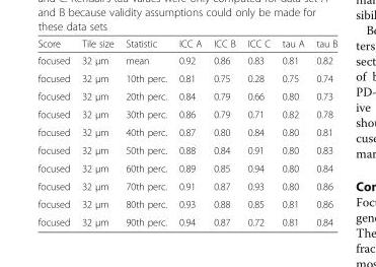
<table><thead><tr><td>Score</td><td>Tile size</td><td>Statistic</td><td>ICC A</td><td>ICC B</td><td>ICC C</td><td>tau A</td><td>tau B</td></tr></thead><tbody><tr><td>focused</td><td>32 μm</td><td>mean</td><td>0.92</td><td>0.86</td><td>0.83</td><td>0.81</td><td>0.82</td></tr><tr><td>focused</td><td>32 μm</td><td>10th perc.</td><td>0.81</td><td>0.75</td><td>0.28</td><td>0.75</td><td>0.74</td></tr><tr><td>focused</td><td>32 μm</td><td>20th perc.</td><td>0.84</td><td>0.79</td><td>0.66</td><td>0.80</td><td>0.73</td></tr><tr><td>focused</td><td>32 μm</td><td>30th perc.</td><td>0.86</td><td>0.79</td><td>0.71</td><td>0.82</td><td>0.78</td></tr><tr><td>focused</td><td>32 μm</td><td>40th perc.</td><td>0.87</td><td>0.80</td><td>0.84</td><td>0.80</td><td>0.81</td></tr><tr><td>focused</td><td>32 μm</td><td>50th perc.</td><td>0.88</td><td>0.84</td><td>0.91</td><td>0.80</td><td>0.83</td></tr><tr><td>focused</td><td>32 μm</td><td>60th perc.</td><td>0.89</td><td>0.85</td><td>0.94</td><td>0.80</td><td>0.84</td></tr><tr><td>focused</td><td>32 μm</td><td>70th perc.</td><td>0.91</td><td>0.87</td><td>0.93</td><td>0.80</td><td>0.86</td></tr><tr><td>focused</td><td>32 μm</td><td>80th perc.</td><td>0.93</td><td>0.88</td><td>0.85</td><td>0.81</td><td>0.86</td></tr><tr><td>focused</td><td>32 μm</td><td>90th perc.</td><td>0.94</td><td>0.87</td><td>0.72</td><td>0.81</td><td>0.84</td></tr></tbody></table>